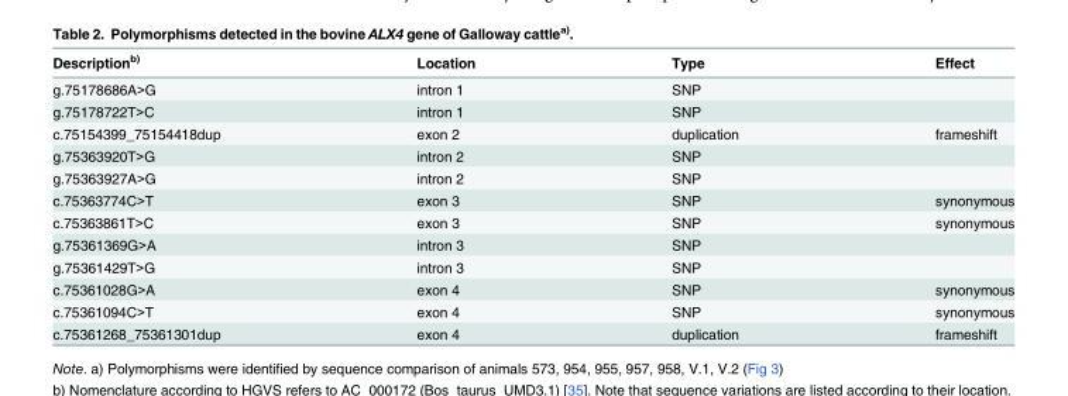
<table><thead><tr><td>Description<sup>b)</sup></td><td>Location</td><td>Type</td><td>Effect</td></tr></thead><tbody><tr><td>g.75178686A&gt;G</td><td>intron 1</td><td>SNP</td><td></td></tr><tr><td>g.75178722T&gt;C</td><td>intron 1</td><td>SNP</td><td></td></tr><tr><td>c.75154399_75154418dup</td><td>exon 2</td><td>duplication</td><td>frameshift</td></tr><tr><td>g.75363920T&gt;G</td><td>intron 2</td><td>SNP</td><td></td></tr><tr><td>g.75363927A&gt;G</td><td>intron 2</td><td>SNP</td><td></td></tr><tr><td>c.75363774C&gt;T</td><td>exon 3</td><td>SNP</td><td>synonymous</td></tr><tr><td>c.75363861T&gt;C</td><td>exon 3</td><td>SNP</td><td>synonymous</td></tr><tr><td>g.75361369G&gt;A</td><td>intron 3</td><td>SNP</td><td></td></tr><tr><td>g.75361429T&gt;G</td><td>intron 3</td><td>SNP</td><td></td></tr><tr><td>c.75361028G&gt;A</td><td>exon 4</td><td>SNP</td><td>synonymous</td></tr><tr><td>c.75361094C&gt;T</td><td>exon 4</td><td>SNP</td><td>synonymous</td></tr><tr><td>c.75361268_75361301dup</td><td>exon 4</td><td>duplication</td><td>frameshift</td></tr></tbody></table>